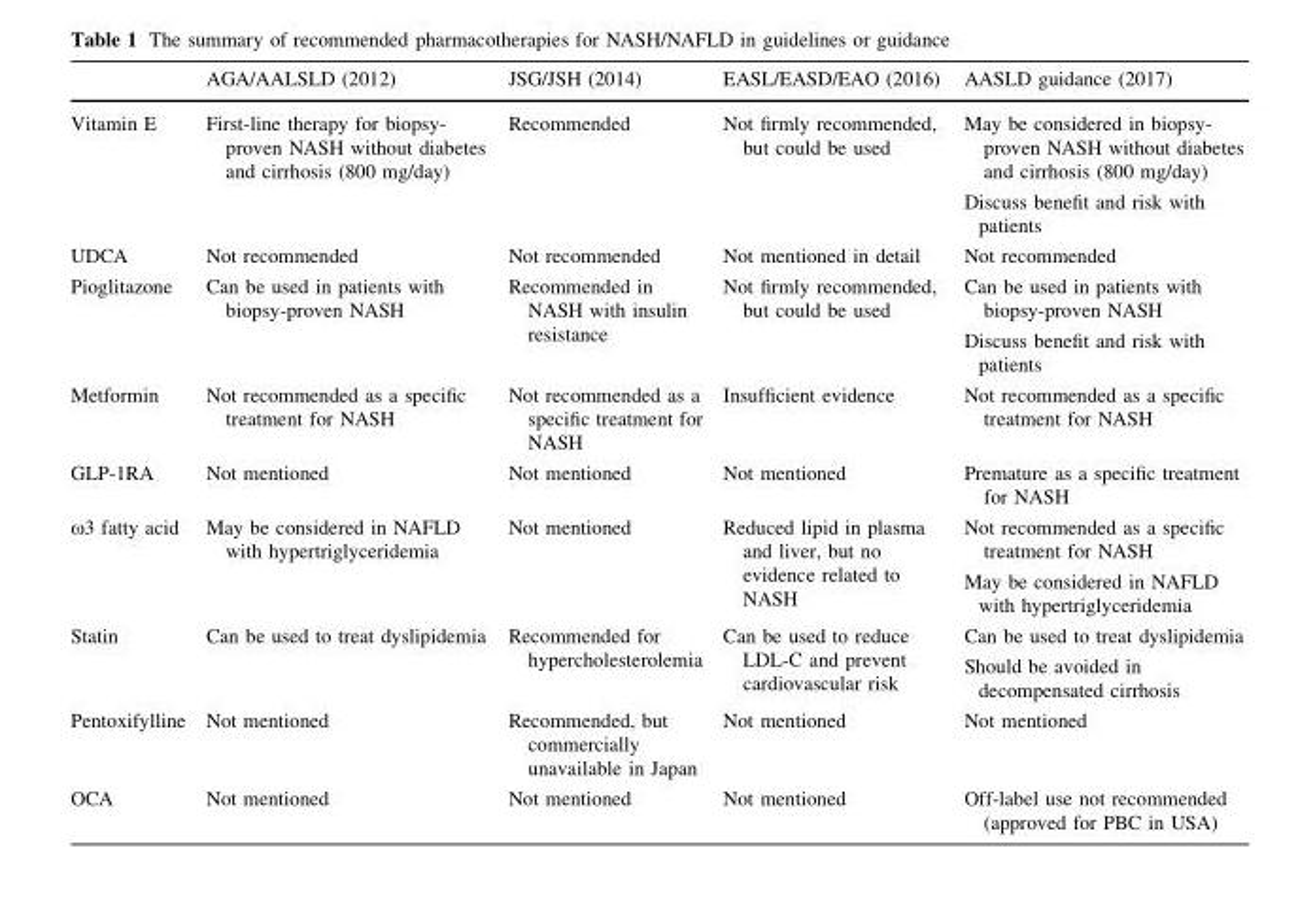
<table><thead><tr><td></td><td>AGA/AALSLD (2012)</td><td>JSG/JSH (2014)</td><td>EASL/EASD/EAO (2016)</td><td>AASLD guidance (2017)</td></tr></thead><tbody><tr><td>Vitamin E</td><td>First-line therapy for biopsy- proven NASH without diabetes and cirrhosis (800 mg/day)</td><td>Recommended</td><td>Not firmly recommended, but could be used</td><td>May be considered in biopsy- proven NASH without diabetes and cirrhosis (800 mg/day) Discuss benefit and risk with patients</td></tr><tr><td>UDCA</td><td>Not recommended</td><td>Not recommended</td><td>Not mentioned in detail</td><td>Not recommended</td></tr><tr><td>Pioglitazone</td><td>Can be used in patients with biopsy-proven NASH</td><td>Recommended in NASH with insulin resistance</td><td>Not firmly recommended, but could be used</td><td>Can be used in patients with biopsy-proven NASH Discuss benefit and risk with patients</td></tr><tr><td>Metformin</td><td>Not recommended as a specific treatment for NASH</td><td>Not recommended as a specific treatment for NASH</td><td>Insufficient evidence</td><td>Not recommended as a specific treatment for NASH</td></tr><tr><td>GLP-1RA</td><td>Not mentioned</td><td>Not mentioned</td><td>Not mentioned</td><td>Premature as a specific treatment for NASH</td></tr><tr><td>ω3 fatty acid</td><td>May be considered in NAFLD with hypertriglyceridemia</td><td>Not mentioned</td><td>Reduced lipid in plasma and liver, but no evidence related to NASH</td><td>Not recommended as a specific treatment for NASH May be considered in NAFLD with hypertriglyceridemia</td></tr><tr><td>Statin</td><td>Can be used to treat dyslipidemia</td><td>Recommended for hypercholesterolemia</td><td>Can be used to reduce LDL-C and prevent cardiovascular risk</td><td>Can be used to treat dyslipidemia Should be avoided in decompensated cirrhosis</td></tr><tr><td>Pentoxifylline</td><td>Not mentioned</td><td>Recommended, but commercially unavailable in Japan</td><td>Not mentioned</td><td>Not mentioned</td></tr><tr><td>OCA</td><td>Not mentioned</td><td>Not mentioned</td><td>Not mentioned</td><td>Off-label use not recommended (approved for PBC in USA)</td></tr></tbody></table>